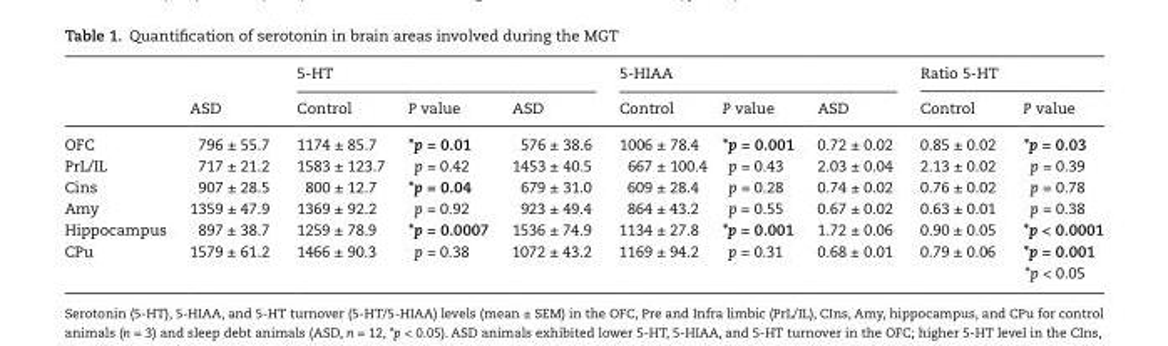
<table><thead><tr><td rowspan="2"></td><td rowspan="2">ASD</td><td colspan="3">5-HT</td><td colspan="3">5-HIAA</td><td colspan="2">Ratio 5-HT</td></tr><tr><td>Control</td><td>P value</td><td>ASD</td><td>Control</td><td>P value</td><td>ASD</td><td>Control</td><td>P value</td></tr></thead><tbody><tr><td>OFC</td><td>796 ± 55.7</td><td>1174 ± 85.7</td><td>*p = 0.01</td><td>576 ± 38.6</td><td>1006 ± 78.4</td><td>*p = 0.001</td><td>0.72 ± 0.02</td><td>0.85 ± 0.02</td><td>*p = 0.03</td></tr><tr><td>PrL/IL</td><td>717 ± 21.2</td><td>1583 ± 123.7</td><td>p = 0.42</td><td>1453 ± 40.5</td><td>667 ± 100.4</td><td>p = 0.43</td><td>2.03 ± 0.04</td><td>2.13 ± 0.02</td><td>p = 0.39</td></tr><tr><td>Cins</td><td>907 ± 28.5</td><td>800 ± 12.7</td><td>*p = 0.04</td><td>679 ± 31.0</td><td>609 ± 28.4</td><td>p = 0.28</td><td>0.74 ± 0.02</td><td>0.76 ± 0.02</td><td>p = 0.78</td></tr><tr><td>Amy</td><td>1359 ± 47.9</td><td>1369 ± 92.2</td><td>p = 0.92</td><td>923 ± 49.4</td><td>864 ± 43.2</td><td>p = 0.55</td><td>0.67 ± 0.02</td><td>0.63 ± 0.01</td><td>p = 0.38</td></tr><tr><td>Hippocampus</td><td>897 ± 38.7</td><td>1259 ± 78.9</td><td>*p = 0.0007</td><td>1536 ± 74.9</td><td>1134 ± 27.8</td><td>*p = 0.001</td><td>1.72 ± 0.06</td><td>0.90 ± 0.05</td><td>*p &lt; 0.0001</td></tr><tr><td rowspan="2">CPu</td><td>1579 ± 61.2</td><td>1466 ± 90.3</td><td>p = 0.38</td><td>1072 ± 43.2</td><td>1169 ± 94.2</td><td>p = 0.31</td><td>0.68 ± 0.01</td><td>0.79 ± 0.06</td><td>*p = 0.001</td></tr><tr><td></td><td></td><td></td><td></td><td></td><td></td><td></td><td></td><td>*p &lt; 0.05</td></tr></tbody></table>